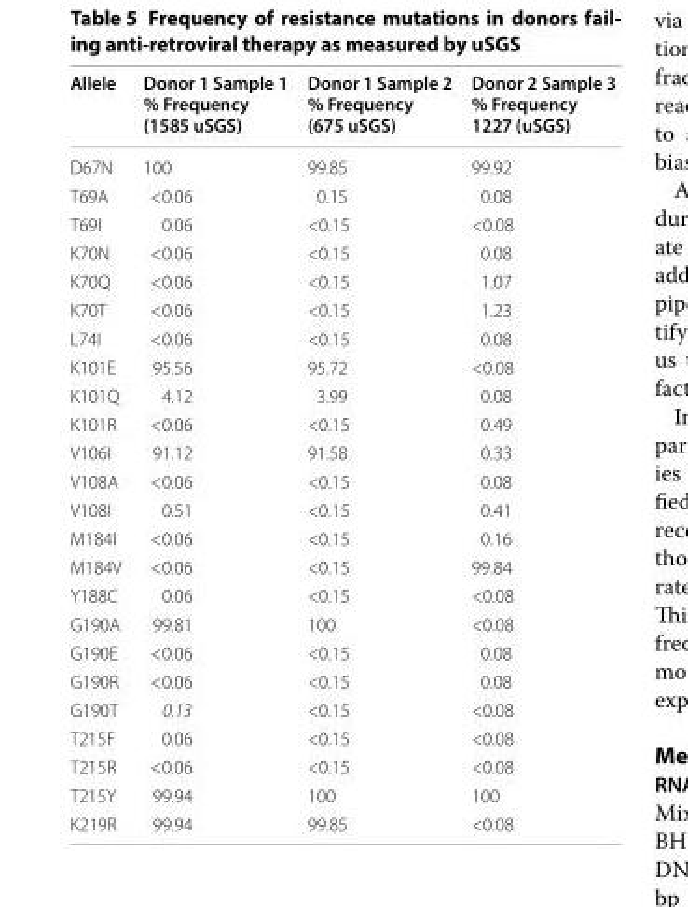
<table><thead><tr><td>Allele</td><td>Donor 1 Sample 1 % Frequency (1585 uSGS)</td><td>Donor 1 Sample 2 % Frequency (675 uSGS)</td><td>Donor 2 Sample 3 % Frequency 1227 (uSGS)</td></tr></thead><tbody><tr><td>D67N</td><td>100</td><td>99.85</td><td>99.92</td></tr><tr><td>T69A</td><td>&lt;0.06</td><td>0.15</td><td>0.08</td></tr><tr><td>T69I</td><td>0.06</td><td>&lt;0.15</td><td>&lt;0.08</td></tr><tr><td>K70N</td><td>&lt;0.06</td><td>&lt;0.15</td><td>0.08</td></tr><tr><td>K70Q</td><td>&lt;0.06</td><td>&lt;0.15</td><td>1.07</td></tr><tr><td>K70T</td><td>&lt;0.06</td><td>&lt;0.15</td><td>1.23</td></tr><tr><td>L74I</td><td>&lt;0.06</td><td>&lt;0.15</td><td>0.08</td></tr><tr><td>K101E</td><td>95.56</td><td>95.72</td><td>&lt;0.08</td></tr><tr><td>K101Q</td><td>4.12</td><td>3.99</td><td>0.08</td></tr><tr><td>K101R</td><td>&lt;0.06</td><td>&lt;0.15</td><td>0.49</td></tr><tr><td>V106I</td><td>91.12</td><td>91.58</td><td>0.33</td></tr><tr><td>V108A</td><td>&lt;0.06</td><td>&lt;0.15</td><td>0.08</td></tr><tr><td>V108I</td><td>0.51</td><td>&lt;0.15</td><td>0.41</td></tr><tr><td>M184I</td><td>&lt;0.06</td><td>&lt;0.15</td><td>0.16</td></tr><tr><td>M184V</td><td>&lt;0.06</td><td>&lt;0.15</td><td>99.84</td></tr><tr><td>Y188C</td><td>0.06</td><td>&lt;0.15</td><td>&lt;0.08</td></tr><tr><td>G190A</td><td>99.81</td><td>100</td><td>&lt;0.08</td></tr><tr><td>G190E</td><td>&lt;0.06</td><td>&lt;0.15</td><td>0.08</td></tr><tr><td>G190R</td><td>&lt;0.06</td><td>&lt;0.15</td><td>0.08</td></tr><tr><td>G190T</td><td>0.13</td><td>&lt;0.15</td><td>&lt;0.08</td></tr><tr><td>T215F</td><td>0.06</td><td>&lt;0.15</td><td>&lt;0.08</td></tr><tr><td>T215R</td><td>&lt;0.06</td><td>&lt;0.15</td><td>&lt;0.08</td></tr><tr><td>T215Y</td><td>99.94</td><td>100</td><td>100</td></tr><tr><td>K219R</td><td>99.94</td><td>99.85</td><td>&lt;0.08</td></tr></tbody></table>